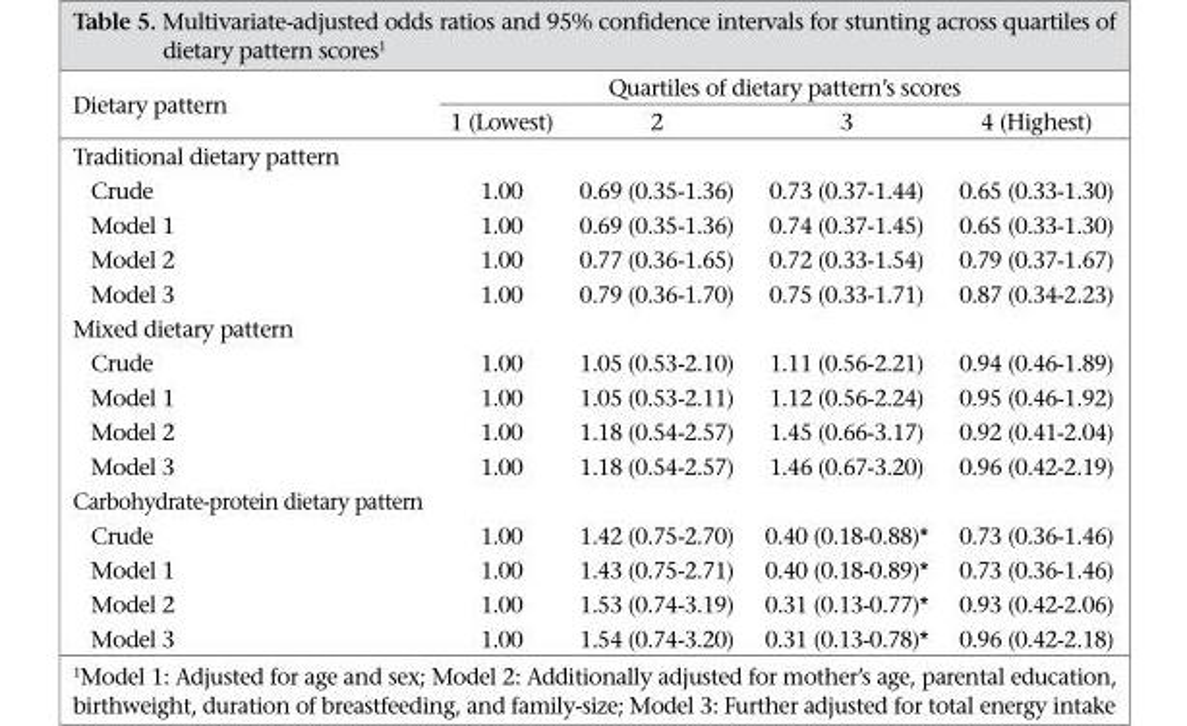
<table><thead><tr><td rowspan="2">Dietary pattern</td><td colspan="4">Quartiles of dietary pattern’s scores</td></tr><tr><td>1 (Lowest)</td><td>2</td><td>3</td><td>4 (Highest)</td></tr></thead><tbody><tr><td colspan="5">Traditional dietary pattern</td></tr><tr><td>Crude</td><td>1.00</td><td>0.69 (0.35-1.36)</td><td>0.73 (0.37-1.44)</td><td>0.65 (0.33-1.30)</td></tr><tr><td>Model 1</td><td>1.00</td><td>0.69 (0.35-1.36)</td><td>0.74 (0.37-1.45)</td><td>0.65 (0.33-1.30)</td></tr><tr><td>Model 2</td><td>1.00</td><td>0.77 (0.36-1.65)</td><td>0.72 (0.33-1.54)</td><td>0.79 (0.37-1.67)</td></tr><tr><td>Model 3</td><td>1.00</td><td>0.79 (0.36-1.70)</td><td>0.75 (0.33-1.71)</td><td>0.87 (0.34-2.23)</td></tr><tr><td colspan="5">Mixed dietary pattern</td></tr><tr><td>Crude</td><td>1.00</td><td>1.05 (0.53-2.10)</td><td>1.11 (0.56-2.21)</td><td>0.94 (0.46-1.89)</td></tr><tr><td>Model 1</td><td>1.00</td><td>1.05 (0.53-2.11)</td><td>1.12 (0.56-2.24)</td><td>0.95 (0.46-1.92)</td></tr><tr><td>Model 2</td><td>1.00</td><td>1.18 (0.54-2.57)</td><td>1.45 (0.66-3.17)</td><td>0.92 (0.41-2.04)</td></tr><tr><td>Model 3</td><td>1.00</td><td>1.18 (0.54-2.57)</td><td>1.46 (0.67-3.20)</td><td>0.96 (0.42-2.19)</td></tr><tr><td colspan="5">Carbohydrate-protein dietary pattern</td></tr><tr><td>Crude</td><td>1.00</td><td>1.42 (0.75-2.70)</td><td>0.40 (0.18-0.88)*</td><td>0.73 (0.36-1.46)</td></tr><tr><td>Model 1</td><td>1.00</td><td>1.43 (0.75-2.71)</td><td>0.40 (0.18-0.89)*</td><td>0.73 (0.36-1.46)</td></tr><tr><td>Model 2</td><td>1.00</td><td>1.53 (0.74-3.19)</td><td>0.31 (0.13-0.77)*</td><td>0.93 (0.42-2.06)</td></tr><tr><td>Model 3</td><td>1.00</td><td>1.54 (0.74-3.20)</td><td>0.31 (0.13-0.78)*</td><td>0.96 (0.42-2.18)</td></tr></tbody></table>